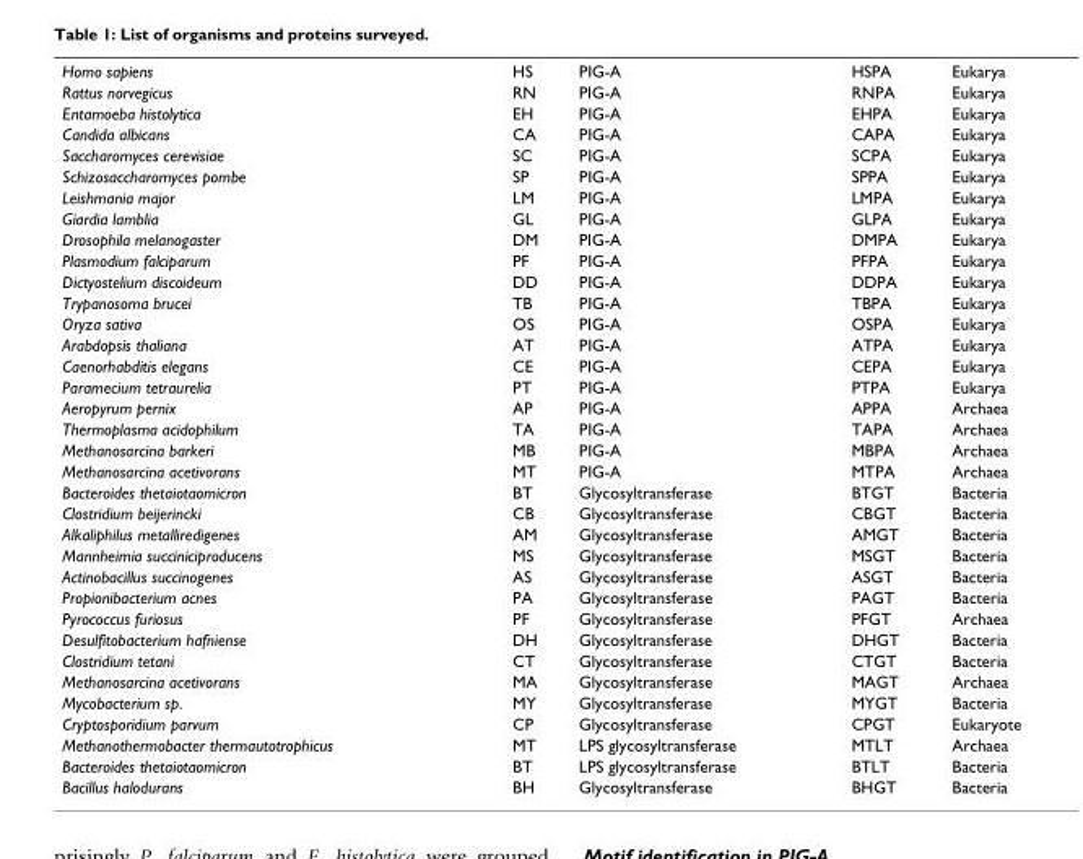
<table><tbody><tr><td>Homo sapiens</td><td>HS</td><td>PIG-A</td><td>HSPA</td><td>Eukarya</td></tr><tr><td>Rattus norvegicus</td><td>RN</td><td>PIG-A</td><td>RNPA</td><td>Eukarya</td></tr><tr><td>Entamoeba histolytica</td><td>EH</td><td>PIG-A</td><td>EHPA</td><td>Eukarya</td></tr><tr><td>Candida albicans</td><td>CA</td><td>PIG-A</td><td>CAPA</td><td>Eukarya</td></tr><tr><td>Saccharomyces cerevisiae</td><td>SC</td><td>PIG-A</td><td>SCPA</td><td>Eukarya</td></tr><tr><td>Schizosaccharomyces pombe</td><td>SP</td><td>PIG-A</td><td>SPPA</td><td>Eukarya</td></tr><tr><td>Leishmania major</td><td>LM</td><td>PIG-A</td><td>LMPA</td><td>Eukarya</td></tr><tr><td>Giardia lamblia</td><td>GL</td><td>PIG-A</td><td>GLPA</td><td>Eukarya</td></tr><tr><td>Drosophila melanogaster</td><td>DM</td><td>PIG-A</td><td>DMPA</td><td>Eukarya</td></tr><tr><td>Plasmodium falciparum</td><td>PF</td><td>PIG-A</td><td>PFPA</td><td>Eukarya</td></tr><tr><td>Dictyostelium discoideum</td><td>DD</td><td>PIG-A</td><td>DDPA</td><td>Eukarya</td></tr><tr><td>Trypanosoma brucei</td><td>TB</td><td>PIG-A</td><td>TBPA</td><td>Eukarya</td></tr><tr><td>Oryza sativa</td><td>OS</td><td>PIG-A</td><td>OSPA</td><td>Eukarya</td></tr><tr><td>Arabdopsis thaliana</td><td>AT</td><td>PIG-A</td><td>ATPA</td><td>Eukarya</td></tr><tr><td>Caenorhabditis elegans</td><td>CE</td><td>PIG-A</td><td>CEPA</td><td>Eukarya</td></tr><tr><td>Paramecium tetraurelia</td><td>PT</td><td>PIG-A</td><td>PTPA</td><td>Eukarya</td></tr><tr><td>Aeropyrum pernix</td><td>AP</td><td>PIG-A</td><td>APPA</td><td>Archaea</td></tr><tr><td>Thermoplasma acidophilum</td><td>TA</td><td>PIG-A</td><td>TAPA</td><td>Archaea</td></tr><tr><td>Methanosarcina barkeri</td><td>MB</td><td>PIG-A</td><td>MBPA</td><td>Archaea</td></tr><tr><td>Methanosarcina acetivorans</td><td>MT</td><td>PIG-A</td><td>MTPA</td><td>Archaea</td></tr><tr><td>Bacteroides thetaiotaomicron</td><td>BT</td><td>Glycosyltransferase</td><td>BTGT</td><td>Bacteria</td></tr><tr><td>Clostridium beijerincki</td><td>CB</td><td>Glycosyltransferase</td><td>CBGT</td><td>Bacteria</td></tr><tr><td>Alkaliphilus metalliredigenes</td><td>AM</td><td>Glycosyltransferase</td><td>AMGT</td><td>Bacteria</td></tr><tr><td>Mannheimia succiniciproducens</td><td>MS</td><td>Glycosyltransferase</td><td>MSGT</td><td>Bacteria</td></tr><tr><td>Actinobacillus succinogenes</td><td>AS</td><td>Glycosyltransferase</td><td>ASGT</td><td>Bacteria</td></tr><tr><td>Propionibacterium acnes</td><td>PA</td><td>Glycosyltransferase</td><td>PAGT</td><td>Bacteria</td></tr><tr><td>Pyrococcus furiosus</td><td>PF</td><td>Glycosyltransferase</td><td>PFGT</td><td>Archaea</td></tr><tr><td>Desulfitobacterium hafniense</td><td>DH</td><td>Glycosyltransferase</td><td>DHGT</td><td>Bacteria</td></tr><tr><td>Clostridium tetani</td><td>CT</td><td>Glycosyltransferase</td><td>CTGT</td><td>Bacteria</td></tr><tr><td>Methanosarcina acetivorans</td><td>MA</td><td>Glycosyltransferase</td><td>MAGT</td><td>Archaea</td></tr><tr><td>Mycobacterium sp.</td><td>MY</td><td>Glycosyltransferase</td><td>MYGT</td><td>Bacteria</td></tr><tr><td>Cryptosporidium parvum</td><td>CP</td><td>Glycosyltransferase</td><td>CPGT</td><td>Eukaryote</td></tr><tr><td>Methanothermobacter thermautotrophicus</td><td>MT</td><td>LPS glycosyltransferase</td><td>MTLT</td><td>Archaea</td></tr><tr><td>Bacteroides thetaiotaomicron</td><td>BT</td><td>LPS glycosyltransferase</td><td>BTLT</td><td>Bacteria</td></tr><tr><td>Bacillus halodurans</td><td>BH</td><td>Glycosyltransferase</td><td>BHGT</td><td>Bacteria</td></tr></tbody></table>